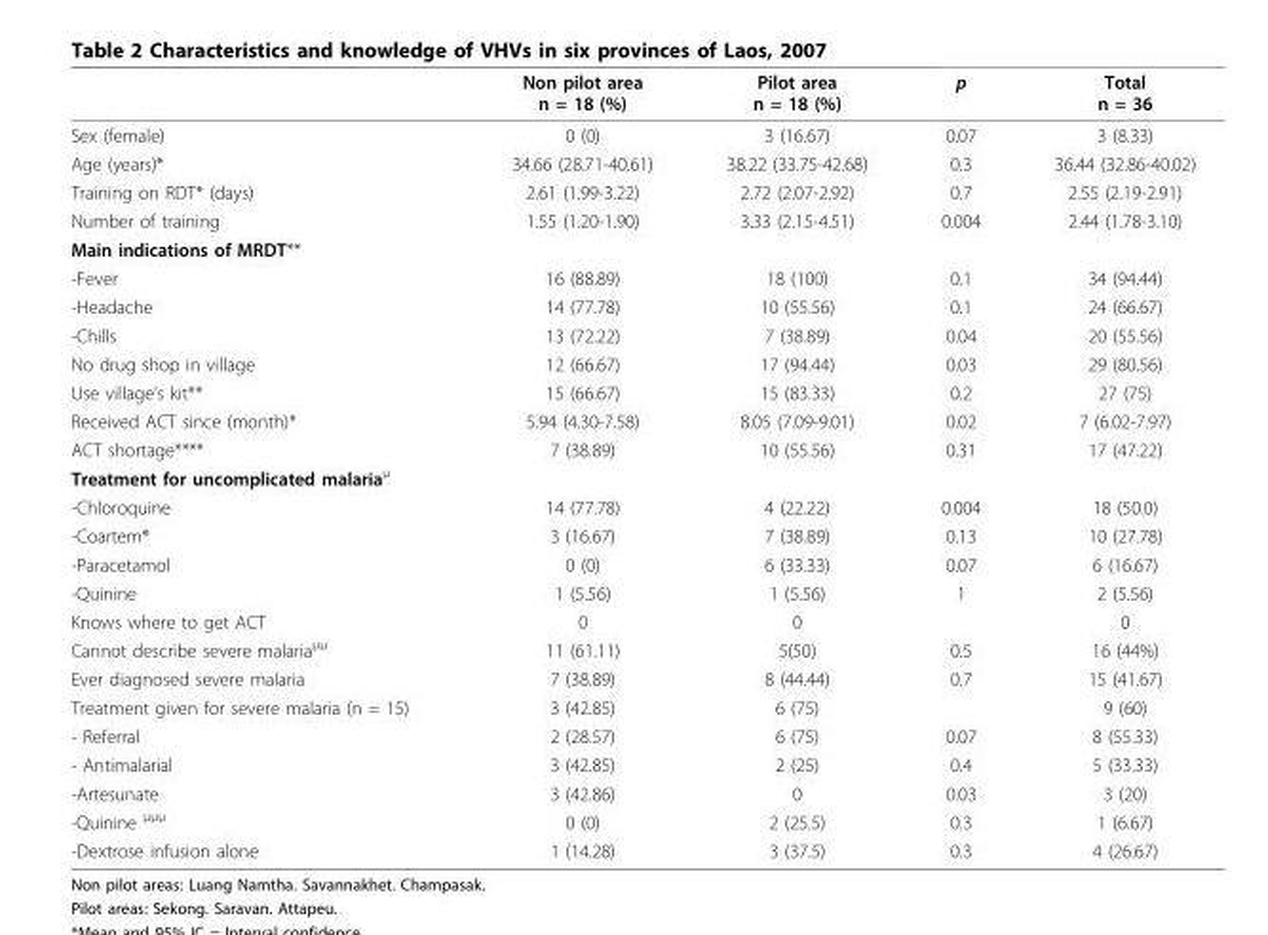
<table><thead><tr><td></td><td>Non pilot area n = 18 (%)</td><td>Pilot area n = 18 (%)</td><td>p</td><td>Total n = 36</td></tr></thead><tbody><tr><td>Sex (female)</td><td>0 (0)</td><td>3 (16.67)</td><td>0.07</td><td>3 (8.33)</td></tr><tr><td>Age (years)*</td><td>34.66 (28.71-40.61)</td><td>38.22 (33.75-42.68)</td><td>0.3</td><td>36.44 (32.86-40.02)</td></tr><tr><td>Training on RDT* (days)</td><td>2.61 (1.99-3.22)</td><td>2.72 (2.07-2.92)</td><td>0.7</td><td>2.55 (2.19-2.91)</td></tr><tr><td>Number of training</td><td>1.55 (1.20-1.90)</td><td>3.33 (2.15-4.51)</td><td>0.004</td><td>2.44 (1.78-3.10)</td></tr><tr><td colspan="5">Main indications of MRDT**</td></tr><tr><td>-Fever</td><td>16 (88.89)</td><td>18 (100)</td><td>0.1</td><td>34 (94.44)</td></tr><tr><td>-Headache</td><td>14 (77.78)</td><td>10 (55.56)</td><td>0.1</td><td>24 (66.67)</td></tr><tr><td>-Chills</td><td>13 (72.22)</td><td>7 (38.89)</td><td>0.04</td><td>20 (55.56)</td></tr><tr><td>No drug shop in village</td><td>12 (66.67)</td><td>17 (94.44)</td><td>0.03</td><td>29 (80.56)</td></tr><tr><td>Use village’s kit**</td><td>15 (66.67)</td><td>15 (83.33)</td><td>0.2</td><td>27 (75)</td></tr><tr><td>Received ACT since (month)*</td><td>5.94 (4.30-7.58)</td><td>8.05 (7.09-9.01)</td><td>0.02</td><td>7 (6.02-7.97)</td></tr><tr><td>ACT shortage****</td><td>7 (38.89)</td><td>10 (55.56)</td><td>0.31</td><td>17 (47.22)</td></tr><tr><td colspan="5">Treatment for uncomplicated malaria<sup>μ</sup></td></tr><tr><td>-Chloroquine</td><td>14 (77.78)</td><td>4 (22.22)</td><td>0.004</td><td>18 (50.0)</td></tr><tr><td>-Coartem<sup>®</sup></td><td>3 (16.67)</td><td>7 (38.89)</td><td>0.13</td><td>10 (27.78)</td></tr><tr><td>-Paracetamol</td><td>0 (0)</td><td>6 (33.33)</td><td>0.07</td><td>6 (16.67)</td></tr><tr><td>-Quinine</td><td>1 (5.56)</td><td>1 (5.56)</td><td>1</td><td>2 (5.56)</td></tr><tr><td>Knows where to get ACT</td><td>0</td><td>0</td><td></td><td>0</td></tr><tr><td>Cannot describe severe malaria<sup>μμ</sup></td><td>11 (61.11)</td><td>5(50)</td><td>0.5</td><td>16 (44%)</td></tr><tr><td>Ever diagnosed severe malaria</td><td>7 (38.89)</td><td>8 (44.44)</td><td>0.7</td><td>15 (41.67)</td></tr><tr><td>Treatment given for severe malaria (n = 15)</td><td>3 (42.85)</td><td>6 (75)</td><td></td><td>9 (60)</td></tr><tr><td>- Referral</td><td>2 (28.57)</td><td>6 (75)</td><td>0.07</td><td>8 (55.33)</td></tr><tr><td>- Antimalarial</td><td>3 (42.85)</td><td>2 (25)</td><td>0.4</td><td>5 (33.33)</td></tr><tr><td>-Artesunate</td><td>3 (42.86)</td><td>0</td><td>0.03</td><td>3 (20)</td></tr><tr><td>-Quinine <sup>μμμ</sup></td><td>0 (0)</td><td>2 (25.5)</td><td>0.3</td><td>1 (6.67)</td></tr><tr><td>-Dextrose infusion alone</td><td>1 (14.28)</td><td>3 (37.5)</td><td>0.3</td><td>4 (26.67)</td></tr></tbody></table>